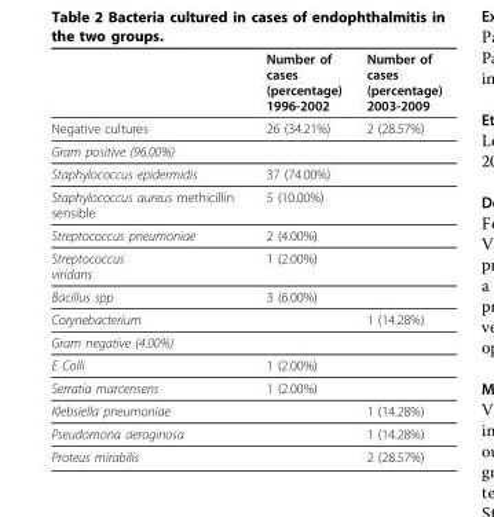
<table><thead><tr><td></td><td>Number of cases (percentage) 1996-2002</td><td>Number of cases (percentage) 2003-2009</td></tr></thead><tbody><tr><td>Negative cultures</td><td>26 (34.21%)</td><td>2 (28.57%)</td></tr><tr><td colspan="3">Gram positive (96.00%)</td></tr><tr><td>Staphylococcus epidermidis</td><td>37 (74.00%)</td><td></td></tr><tr><td>Staphylococcus aureus methicillin sensible</td><td>5 (10.00%)</td><td></td></tr><tr><td>Streptococcus pneumoniae</td><td>2 (4.00%)</td><td></td></tr><tr><td>Streptococcus viridans</td><td>1 (2.00%)</td><td></td></tr><tr><td>Bacillus spp</td><td>3 (6.00%)</td><td></td></tr><tr><td>Corynebacterium</td><td></td><td>1 (14.28%)</td></tr><tr><td colspan="3">Gram negative (4.00%)</td></tr><tr><td>E Colli</td><td>1 (2.00%)</td><td></td></tr><tr><td>Serratia marcensens</td><td>1 (2.00%)</td><td></td></tr><tr><td>Klebsiella pneumoniae</td><td></td><td>1 (14.28%)</td></tr><tr><td>Pseudomona aeroginosa</td><td></td><td>1 (14.28%)</td></tr><tr><td>Proteus mirabilis</td><td></td><td>2 (28.57%)</td></tr></tbody></table>